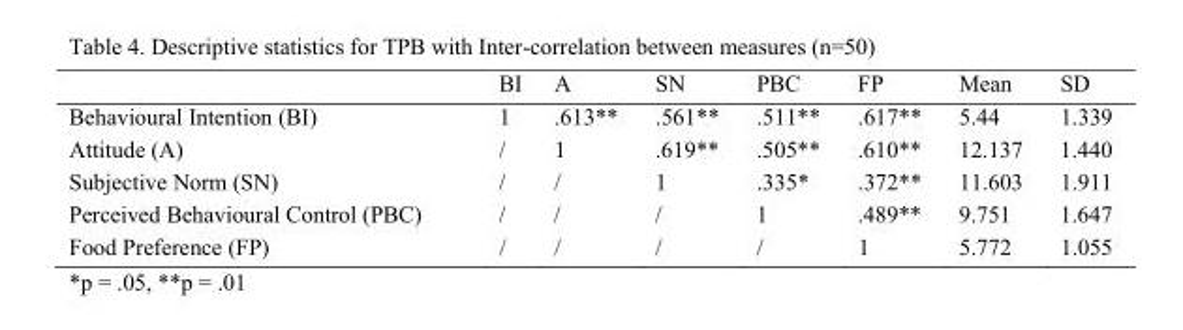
<table><thead><tr><td></td><td>BI</td><td>A</td><td>SN</td><td>PBC</td><td>FP</td><td>Mean</td><td>SD</td></tr></thead><tbody><tr><td>Behavioural Intention (BI)</td><td>1</td><td>.613**</td><td>.561**</td><td>.511**</td><td>.617**</td><td>5.44</td><td>1.339</td></tr><tr><td>Attitude (A)</td><td>/</td><td>1</td><td>.619**</td><td>.505**</td><td>.610**</td><td>12.137</td><td>1.440</td></tr><tr><td>Subjective Norm (SN)</td><td>/</td><td>/</td><td>1</td><td>.335*</td><td>.372**</td><td>11.603</td><td>1.911</td></tr><tr><td>Perceived Behavioural Control (PBC)</td><td>/</td><td>/</td><td>/</td><td>1</td><td>.489**</td><td>9.751</td><td>1.647</td></tr><tr><td>Food Preference (FP)</td><td>/</td><td>/</td><td>/</td><td>/</td><td>1</td><td>5.772</td><td>1.055</td></tr></tbody></table>